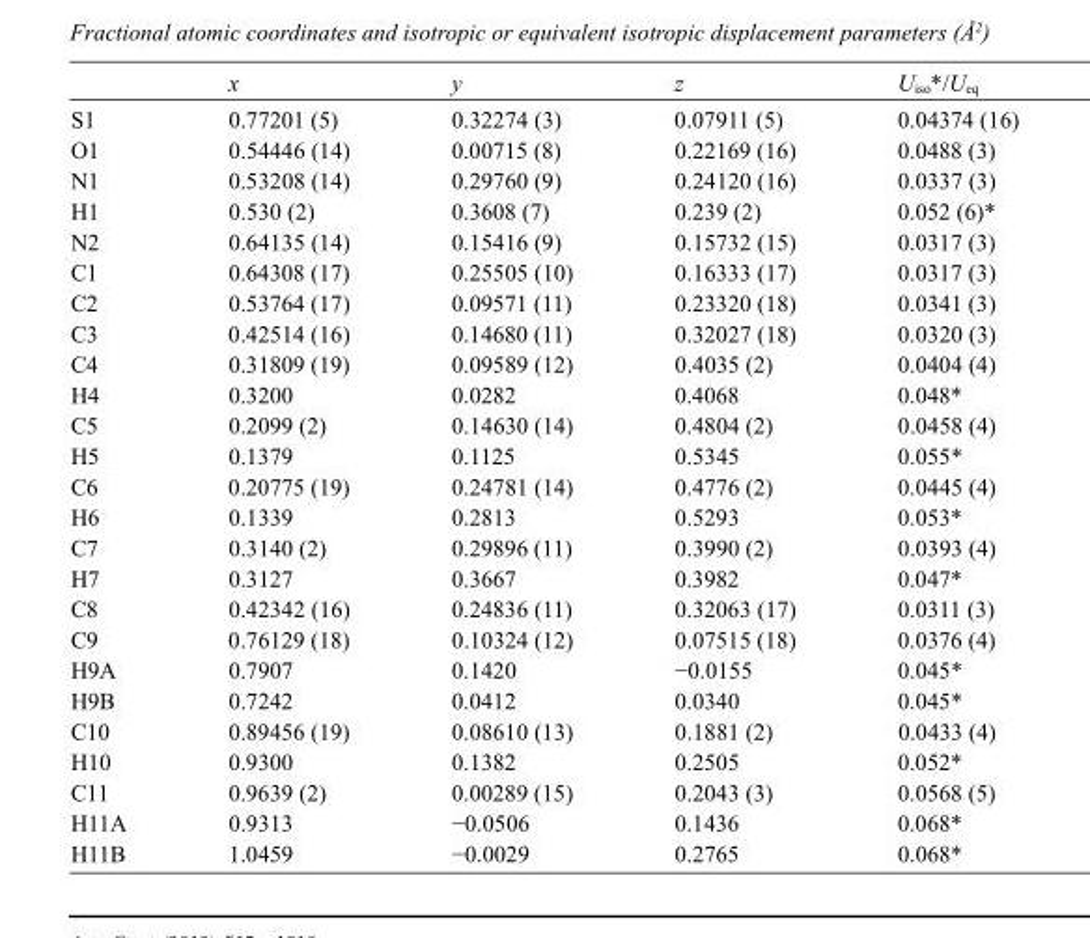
<table><thead><tr><td></td><td>x</td><td>y</td><td>z</td><td>U<sub>iso</sub>*/U<sub>eq</sub></td></tr></thead><tbody><tr><td>S1</td><td>0.77201 (5)</td><td>0.32274 (3)</td><td>0.07911 (5)</td><td>0.04374 (16)</td></tr><tr><td>O1</td><td>0.54446 (14)</td><td>0.00715 (8)</td><td>0.22169 (16)</td><td>0.0488 (3)</td></tr><tr><td>N1</td><td>0.53208 (14)</td><td>0.29760 (9)</td><td>0.24120 (16)</td><td>0.0337 (3)</td></tr><tr><td>H1</td><td>0.530 (2)</td><td>0.3608 (7)</td><td>0.239 (2)</td><td>0.052 (6)*</td></tr><tr><td>N2</td><td>0.64135 (14)</td><td>0.15416 (9)</td><td>0.15732 (15)</td><td>0.0317 (3)</td></tr><tr><td>C1</td><td>0.64308 (17)</td><td>0.25505 (10)</td><td>0.16333 (17)</td><td>0.0317 (3)</td></tr><tr><td>C2</td><td>0.53764 (17)</td><td>0.09571 (11)</td><td>0.23320 (18)</td><td>0.0341 (3)</td></tr><tr><td>C3</td><td>0.42514 (16)</td><td>0.14680 (11)</td><td>0.32027 (18)</td><td>0.0320 (3)</td></tr><tr><td>C4</td><td>0.31809 (19)</td><td>0.09589 (12)</td><td>0.4035 (2)</td><td>0.0404 (4)</td></tr><tr><td>H4</td><td>0.3200</td><td>0.0282</td><td>0.4068</td><td>0.048*</td></tr><tr><td>C5</td><td>0.2099 (2)</td><td>0.14630 (14)</td><td>0.4804 (2)</td><td>0.0458 (4)</td></tr><tr><td>H5</td><td>0.1379</td><td>0.1125</td><td>0.5345</td><td>0.055*</td></tr><tr><td>C6</td><td>0.20775 (19)</td><td>0.24781 (14)</td><td>0.4776 (2)</td><td>0.0445 (4)</td></tr><tr><td>H6</td><td>0.1339</td><td>0.2813</td><td>0.5293</td><td>0.053*</td></tr><tr><td>C7</td><td>0.3140 (2)</td><td>0.29896 (11)</td><td>0.3990 (2)</td><td>0.0393 (4)</td></tr><tr><td>H7</td><td>0.3127</td><td>0.3667</td><td>0.3982</td><td>0.047*</td></tr><tr><td>C8</td><td>0.42342 (16)</td><td>0.24836 (11)</td><td>0.32063 (17)</td><td>0.0311 (3)</td></tr><tr><td>C9</td><td>0.76129 (18)</td><td>0.10324 (12)</td><td>0.07515 (18)</td><td>0.0376 (4)</td></tr><tr><td>H9A</td><td>0.7907</td><td>0.1420</td><td>−0.0155</td><td>0.045*</td></tr><tr><td>H9B</td><td>0.7242</td><td>0.0412</td><td>0.0340</td><td>0.045*</td></tr><tr><td>C10</td><td>0.89456 (19)</td><td>0.08610 (13)</td><td>0.1881 (2)</td><td>0.0433 (4)</td></tr><tr><td>H10</td><td>0.9300</td><td>0.1382</td><td>0.2505</td><td>0.052*</td></tr><tr><td>C11</td><td>0.9639 (2)</td><td>0.00289 (15)</td><td>0.2043 (3)</td><td>0.0568 (5)</td></tr><tr><td>H11A</td><td>0.9313</td><td>−0.0506</td><td>0.1436</td><td>0.068*</td></tr><tr><td>H11B</td><td>1.0459</td><td>−0.0029</td><td>0.2765</td><td>0.068*</td></tr></tbody></table>